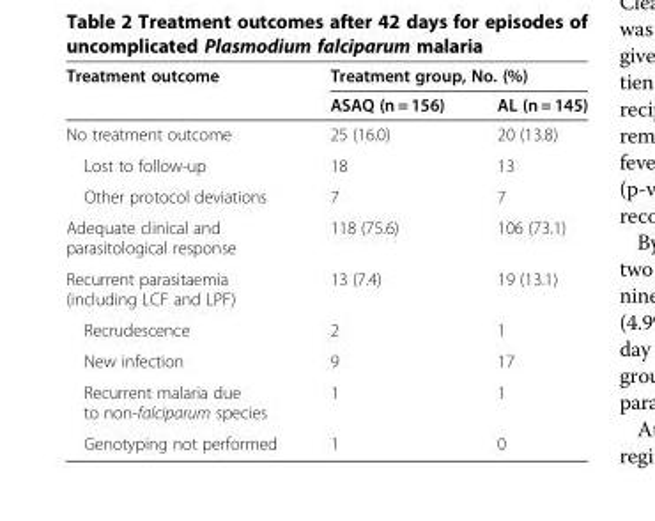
<table><thead><tr><td rowspan="2">Treatment outcome</td><td colspan="2">Treatment group, No. (%)</td></tr><tr><td>ASAQ (n = 156)</td><td>AL (n = 145)</td></tr></thead><tbody><tr><td>No treatment outcome</td><td>25 (16.0)</td><td>20 (13.8)</td></tr><tr><td>Lost to follow-up</td><td>18</td><td>13</td></tr><tr><td>Other protocol deviations</td><td>7</td><td>7</td></tr><tr><td>Adequate clinical and parasitological response</td><td>118 (75.6)</td><td>106 (73.1)</td></tr><tr><td>Recurrent parasitaemia (including LCF and LPF)</td><td>13 (7.4)</td><td>19 (13.1)</td></tr><tr><td>Recrudescence</td><td>2</td><td>1</td></tr><tr><td>New infection</td><td>9</td><td>17</td></tr><tr><td>Recurrent malaria due to non-falciparum species</td><td>1</td><td>1</td></tr><tr><td>Genotyping not performed</td><td>1</td><td>0</td></tr></tbody></table>